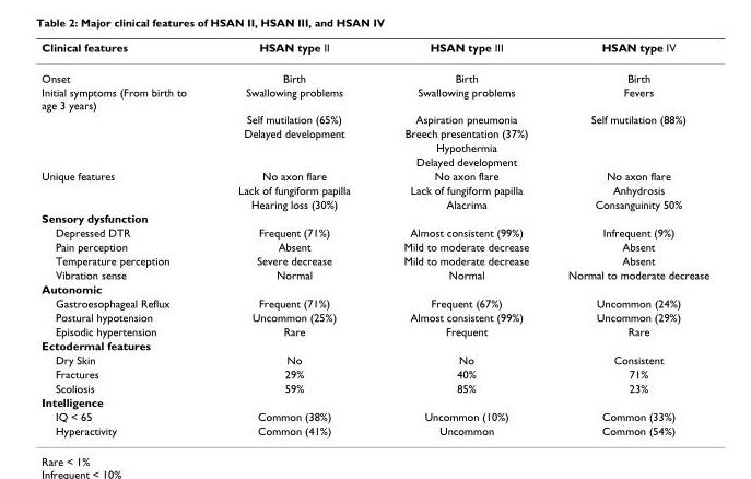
<table><thead><tr><td>Clinical features</td><td>HSAN type II</td><td>HSAN type III</td><td>HSAN type IV</td></tr></thead><tbody><tr><td>Onset</td><td>Birth</td><td>Birth</td><td>Birth</td></tr><tr><td rowspan="5">Initial symptoms (From birth to age 3 years)</td><td>Swallowing problems</td><td>Swallowing problems</td><td>Fevers</td></tr><tr><td>Self mutilation (65%)</td><td>Aspiration pneumonia</td><td>Self mutilation (88%)</td></tr><tr><td>Delayed development</td><td>Breech presentation (37%)</td><td></td></tr><tr><td></td><td>Hypothermia</td><td></td></tr><tr><td></td><td>Delayed development</td><td></td></tr><tr><td rowspan="3">Unique features</td><td>No axon flare</td><td>No axon flare</td><td>No axon flare</td></tr><tr><td>Lack of fungiform papilla</td><td>Lack of fungiform papilla</td><td>Anhydrosis</td></tr><tr><td>Hearing loss (30%)</td><td>Alacrima</td><td>Consanguinity 50%</td></tr><tr><td colspan="4">Sensory dysfunction</td></tr><tr><td>Depressed DTR</td><td>Frequent (71%)</td><td>Almost consistent (99%)</td><td>Infrequent (9%)</td></tr><tr><td>Pain perception</td><td>Absent</td><td>Mild to moderate decrease</td><td>Absent</td></tr><tr><td>Temperature perception</td><td>Severe decrease</td><td>Mild to moderate decrease</td><td>Absent</td></tr><tr><td>Vibration sense</td><td>Normal</td><td>Normal</td><td>Normal to moderate decrease</td></tr><tr><td colspan="4">Autonomic</td></tr><tr><td>Gastroesophageal Reflux</td><td>Frequent (71%)</td><td>Frequent (67%)</td><td>Uncommon (24%)</td></tr><tr><td>Postural hypotension</td><td>Uncommon (25%)</td><td>Almost consistent (99%)</td><td>Uncommon (29%)</td></tr><tr><td>Episodic hypertension</td><td>Rare</td><td>Frequent</td><td>Rare</td></tr><tr><td colspan="4">Ectodermal features</td></tr><tr><td>Dry Skin</td><td>No</td><td>No</td><td>Consistent</td></tr><tr><td>Fractures</td><td>29%</td><td>40%</td><td>71%</td></tr><tr><td>Scoliosis</td><td>59%</td><td>85%</td><td>23%</td></tr><tr><td colspan="4">Intelligence</td></tr><tr><td>IQ &lt; 65</td><td>Common (38%)</td><td>Uncommon (10%)</td><td>Common (33%)</td></tr><tr><td>Hyperactivity</td><td>Common (41%)</td><td>Uncommon</td><td>Common (54%)</td></tr></tbody></table>